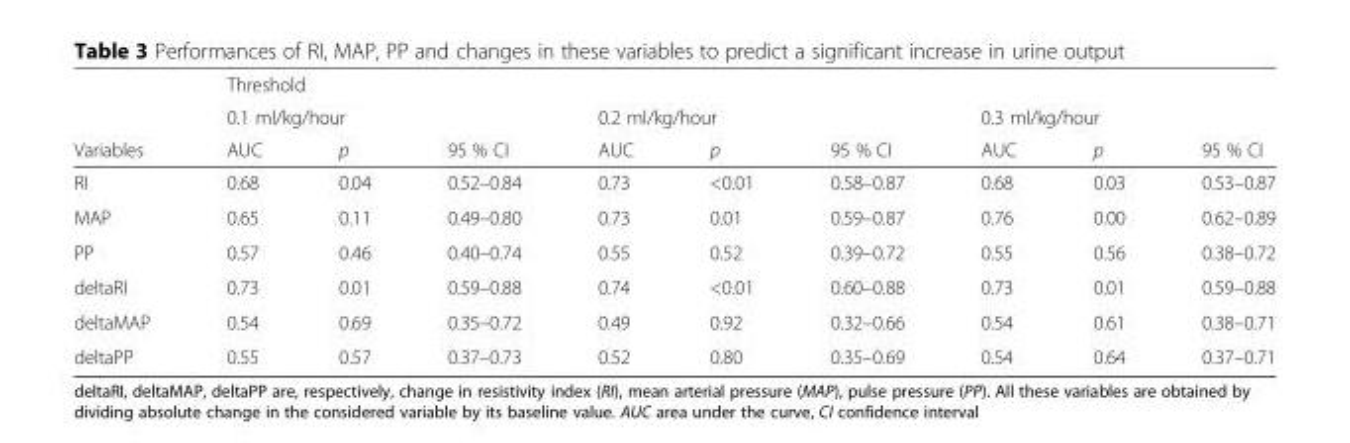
<table><thead><tr><td rowspan="3">Variables</td><td colspan="9">Threshold</td></tr><tr><td colspan="3">0.1 ml/kg/hour</td><td colspan="3">0.2 ml/kg/hour</td><td colspan="3">0.3 ml/kg/hour</td></tr><tr><td>AUC</td><td>p</td><td>95 % CI</td><td>AUC</td><td>p</td><td>95 % CI</td><td>AUC</td><td>p</td><td>95 % CI</td></tr></thead><tbody><tr><td>RI</td><td>0.68</td><td>0.04</td><td>0.52–0.84</td><td>0.73</td><td>&lt;0.01</td><td>0.58–0.87</td><td>0.68</td><td>0.03</td><td>0.53–0.87</td></tr><tr><td>MAP</td><td>0.65</td><td>0.11</td><td>0.49–0.80</td><td>0.73</td><td>0.01</td><td>0.59–0.87</td><td>0.76</td><td>0.00</td><td>0.62–0.89</td></tr><tr><td>PP</td><td>0.57</td><td>0.46</td><td>0.40–0.74</td><td>0.55</td><td>0.52</td><td>0.39–0.72</td><td>0.55</td><td>0.56</td><td>0.38–0.72</td></tr><tr><td>deltaRI</td><td>0.73</td><td>0.01</td><td>0.59–0.88</td><td>0.74</td><td>&lt;0.01</td><td>0.60–0.88</td><td>0.73</td><td>0.01</td><td>0.59–0.88</td></tr><tr><td>deltaMAP</td><td>0.54</td><td>0.69</td><td>0.35–0.72</td><td>0.49</td><td>0.92</td><td>0.32–0.66</td><td>0.54</td><td>0.61</td><td>0.38–0.71</td></tr><tr><td>deltaPP</td><td>0.55</td><td>0.57</td><td>0.37–0.73</td><td>0.52</td><td>0.80</td><td>0.35–0.69</td><td>0.54</td><td>0.64</td><td>0.37–0.71</td></tr></tbody></table>